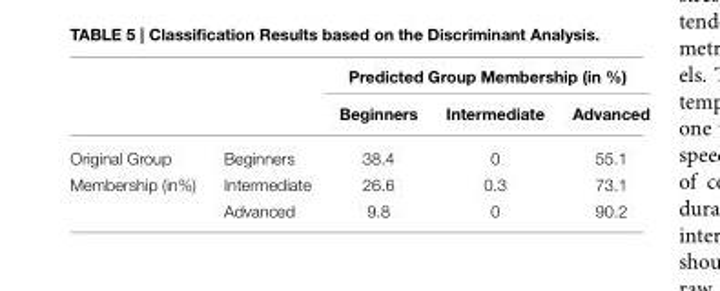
<table><thead><tr><td rowspan="2"></td><td rowspan="2"></td><td colspan="3">Predicted Group Membership (in %)</td></tr><tr><td>Beginners</td><td>Intermediate</td><td>Advanced</td></tr></thead><tbody><tr><td>Original Group</td><td>Beginners</td><td>38.4</td><td>0</td><td>55.1</td></tr><tr><td rowspan="2">Membership (in%)</td><td>Intermediate</td><td>26.6</td><td>0.3</td><td>73.1</td></tr><tr><td>Advanced</td><td>9.8</td><td>0</td><td>90.2</td></tr></tbody></table>